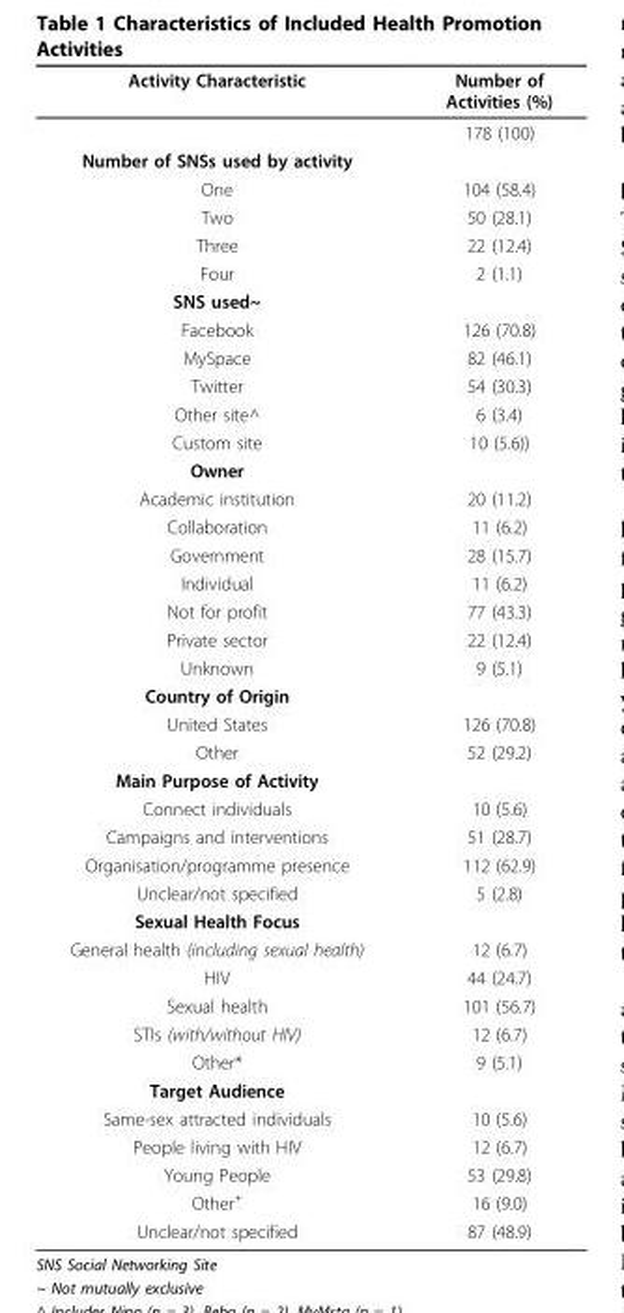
<table><thead><tr><td>Activity Characteristic</td><td>Number of Activities (%)</td></tr></thead><tbody><tr><td></td><td>178 (100)</td></tr><tr><td colspan="2">Number of SNSs used by activity</td></tr><tr><td>One</td><td>104 (58.4)</td></tr><tr><td>Two</td><td>50 (28.1)</td></tr><tr><td>Three</td><td>22 (12.4)</td></tr><tr><td>Four</td><td>2 (1.1)</td></tr><tr><td colspan="2">SNS used~</td></tr><tr><td>Facebook</td><td>126 (70.8)</td></tr><tr><td>MySpace</td><td>82 (46.1)</td></tr><tr><td>Twitter</td><td>54 (30.3)</td></tr><tr><td>Other site^</td><td>6 (3.4)</td></tr><tr><td>Custom site</td><td>10 (5.6))</td></tr><tr><td colspan="2">Owner</td></tr><tr><td>Academic institution</td><td>20 (11.2)</td></tr><tr><td>Collaboration</td><td>11 (6.2)</td></tr><tr><td>Government</td><td>28 (15.7)</td></tr><tr><td>Individual</td><td>11 (6.2)</td></tr><tr><td>Not for profit</td><td>77 (43.3)</td></tr><tr><td>Private sector</td><td>22 (12.4)</td></tr><tr><td>Unknown</td><td>9 (5.1)</td></tr><tr><td colspan="2">Country of Origin</td></tr><tr><td>United States</td><td>126 (70.8)</td></tr><tr><td>Other</td><td>52 (29.2)</td></tr><tr><td colspan="2">Main Purpose of Activity</td></tr><tr><td>Connect individuals</td><td>10 (5.6)</td></tr><tr><td>Campaigns and interventions</td><td>51 (28.7)</td></tr><tr><td>Organisation/programme presence</td><td>112 (62.9)</td></tr><tr><td>Unclear/not specified</td><td>5 (2.8)</td></tr><tr><td colspan="2">Sexual Health Focus</td></tr><tr><td>General health (including sexual health)</td><td>12 (6.7)</td></tr><tr><td>HIV</td><td>44 (24.7)</td></tr><tr><td>Sexual health</td><td>101 (56.7)</td></tr><tr><td>STIs (with/without HIV)</td><td>12 (6.7)</td></tr><tr><td>Other*</td><td>9 (5.1)</td></tr><tr><td colspan="2">Target Audience</td></tr><tr><td>Same-sex attracted individuals</td><td>10 (5.6)</td></tr><tr><td>People living with HIV</td><td>12 (6.7)</td></tr><tr><td>Young People</td><td>53 (29.8)</td></tr><tr><td>Other<sup>+</sup></td><td>16 (9.0)</td></tr><tr><td>Unclear/not specified</td><td>87 (48.9)</td></tr></tbody></table>